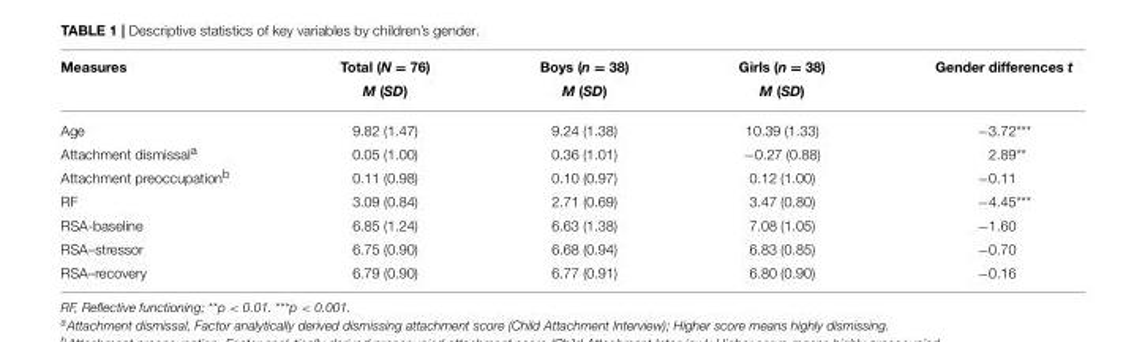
<table><thead><tr><td rowspan="2">Measures</td><td rowspan="2">Total (N = 76) M (SD)</td><td rowspan="2">Boys (n = 38) M (SD)</td><td rowspan="2">Girls (n = 38) M (SD)</td><td rowspan="2">Gender differences t</td></tr><tr></tr></thead><tbody><tr><td>Age</td><td>9.82 (1.47)</td><td>9.24 (1.38)</td><td>10.39 (1.33)</td><td>−3.72***</td></tr><tr><td>Attachment dismissal<sup>a</sup></td><td>0.05 (1.00)</td><td>0.36 (1.01)</td><td>−0.27 (0.88)</td><td>2.89**</td></tr><tr><td>Attachment preoccupation<sup>b</sup></td><td>0.11 (0.98)</td><td>0.10 (0.97)</td><td>0.12 (1.00)</td><td>−0.11</td></tr><tr><td>RF</td><td>3.09 (0.84)</td><td>2.71 (0.69)</td><td>3.47 (0.80)</td><td>−4.45***</td></tr><tr><td>RSA-baseline</td><td>6.85 (1.24)</td><td>6.63 (1.38)</td><td>7.08 (1.05)</td><td>−1.60</td></tr><tr><td>RSA–stressor</td><td>6.75 (0.90)</td><td>6.68 (0.94)</td><td>6.83 (0.85)</td><td>−0.70</td></tr><tr><td>RSA–recovery</td><td>6.79 (0.90)</td><td>6.77 (0.91)</td><td>6.80 (0.90)</td><td>−0.16</td></tr></tbody></table>